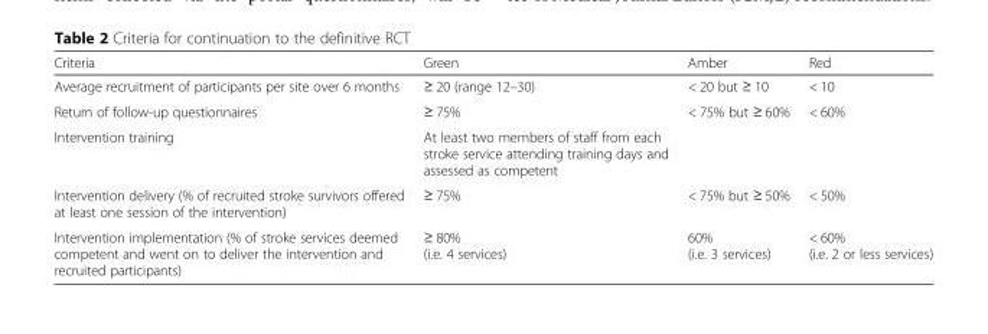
<table><thead><tr><td>Criteria</td><td>Green</td><td>Amber</td><td>Red</td></tr></thead><tbody><tr><td>Average recruitment of participants per site over 6 months</td><td>≥ 20 (range 12–30)</td><td>&lt; 20 but ≥ 10</td><td>&lt; 10</td></tr><tr><td>Return of follow-up questionnaires</td><td>≥ 75%</td><td>&lt; 75% but ≥ 60%</td><td>&lt; 60%</td></tr><tr><td>Intervention training</td><td>At least two members of staff from each stroke service attending training days and assessed as competent</td><td></td><td></td></tr><tr><td>Intervention delivery (% of recruited stroke survivors offered at least one session of the intervention)</td><td>≥ 75%</td><td>&lt; 75% but ≥ 50%</td><td>&lt; 50%</td></tr><tr><td>Intervention implementation (% of stroke services deemed competent and went on to deliver the intervention and recruited participants)</td><td>≥ 80% (i.e. 4 services)</td><td>60% (i.e. 3 services)</td><td>&lt; 60% (i.e. 2 or less services)</td></tr></tbody></table>